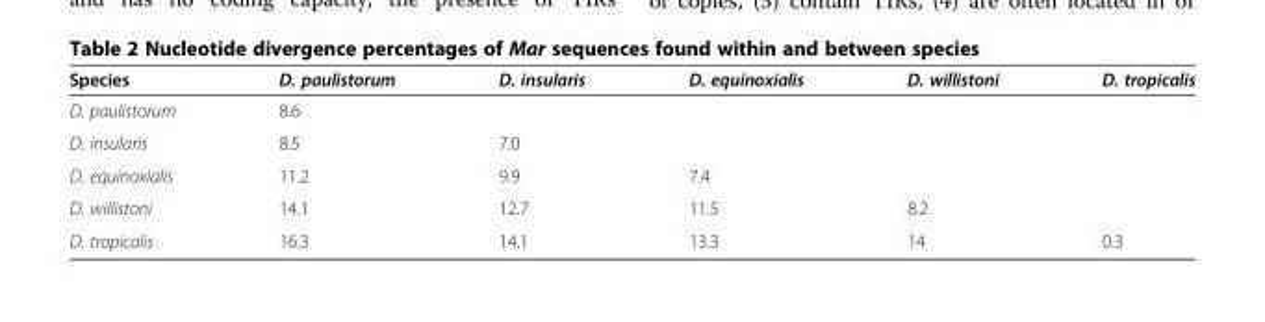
<table><thead><tr><td>Species</td><td>D. paulistorum</td><td>D. insularis</td><td>D. equinoxialis</td><td>D. willistoni</td><td>D. tropicalis</td></tr></thead><tbody><tr><td>D. paulistorum</td><td>8.6</td><td></td><td></td><td></td><td></td></tr><tr><td>D. insularis</td><td>8.5</td><td>7.0</td><td></td><td></td><td></td></tr><tr><td>D. equinoxialis</td><td>11.2</td><td>9.9</td><td>7.4</td><td></td><td></td></tr><tr><td>D. willistoni</td><td>14.1</td><td>12.7</td><td>11.5</td><td>8.2</td><td></td></tr><tr><td>D. tropicalis</td><td>16.3</td><td>14.1</td><td>13.3</td><td>14</td><td>0.3</td></tr></tbody></table>